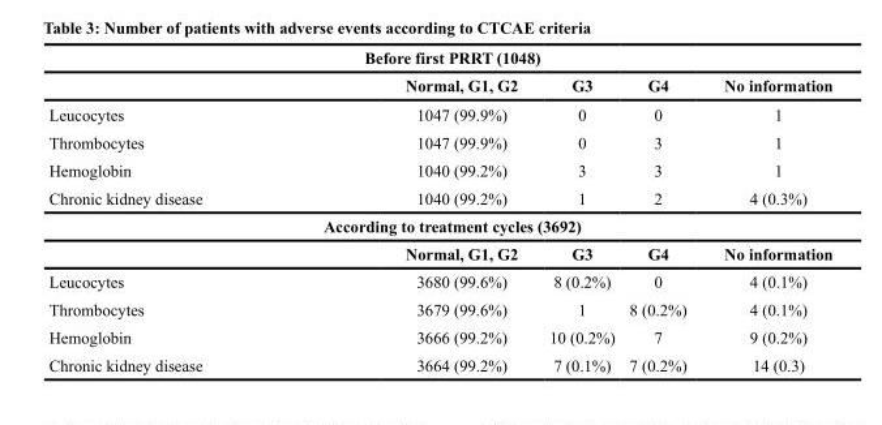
<table><thead><tr><td colspan="5">Before first PRRT (1048)</td></tr><tr><td></td><td>Normal, G1, G2</td><td>G3</td><td>G4</td><td>No information</td></tr></thead><tbody><tr><td>Leucocytes</td><td>1047 (99.9%)</td><td>0</td><td>0</td><td>1</td></tr><tr><td>Thrombocytes</td><td>1047 (99.9%)</td><td>0</td><td>3</td><td>1</td></tr><tr><td>Hemoglobin</td><td>1040 (99.2%)</td><td>3</td><td>3</td><td>1</td></tr><tr><td>Chronic kidney disease</td><td>1040 (99.2%)</td><td>1</td><td>2</td><td>4 (0.3%)</td></tr><tr><td colspan="5">According to treatment cycles (3692)</td></tr><tr><td></td><td>Normal, G1, G2</td><td>G3</td><td>G4</td><td>No information</td></tr><tr><td>Leucocytes</td><td>3680 (99.6%)</td><td>8 (0.2%)</td><td>0</td><td>4 (0.1%)</td></tr><tr><td>Thrombocytes</td><td>3679 (99.6%)</td><td>1</td><td>8 (0.2%)</td><td>4 (0.1%)</td></tr><tr><td>Hemoglobin</td><td>3666 (99.2%)</td><td>10 (0.2%)</td><td>7</td><td>9 (0.2%)</td></tr><tr><td>Chronic kidney disease</td><td>3664 (99.2%)</td><td>7 (0.1%)</td><td>7 (0.2%)</td><td>14 (0.3)</td></tr></tbody></table>